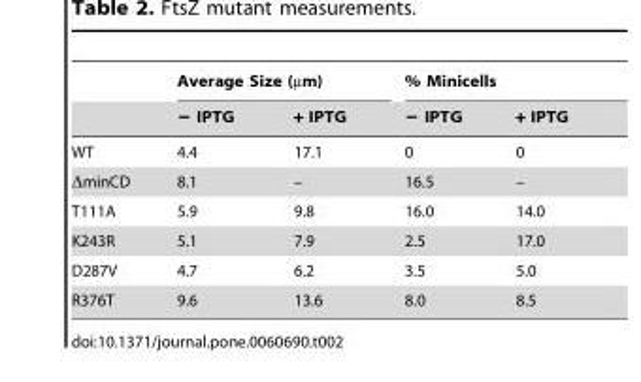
<table><thead><tr><td rowspan="2"></td><td colspan="2">Average Size (µm)</td><td colspan="2">% Minicells</td></tr><tr><td>− IPTG</td><td>+ IPTG</td><td>− IPTG</td><td>+ IPTG</td></tr></thead><tbody><tr><td>WT</td><td>4.4</td><td>17.1</td><td>0</td><td>0</td></tr><tr><td>ΔminCD</td><td>8.1</td><td>–</td><td>16.5</td><td>–</td></tr><tr><td>T111A</td><td>5.9</td><td>9.8</td><td>16.0</td><td>14.0</td></tr><tr><td>K243R</td><td>5.1</td><td>7.9</td><td>2.5</td><td>17.0</td></tr><tr><td>D287V</td><td>4.7</td><td>6.2</td><td>3.5</td><td>5.0</td></tr><tr><td>R376T</td><td>9.6</td><td>13.6</td><td>8.0</td><td>8.5</td></tr></tbody></table>